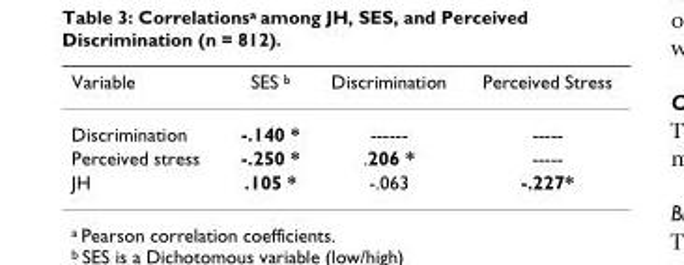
<table><thead><tr><td>Variable</td><td>SES <sup>b</sup></td><td>Discrimination</td><td>Perceived Stress</td></tr></thead><tbody><tr><td>Discrimination</td><td>-.140 *</td><td>------</td><td>-----</td></tr><tr><td>Perceived stress</td><td>-.250 *</td><td>.206 *</td><td>-----</td></tr><tr><td>JH</td><td>.105 *</td><td>-.063</td><td>-.227*</td></tr></tbody></table>